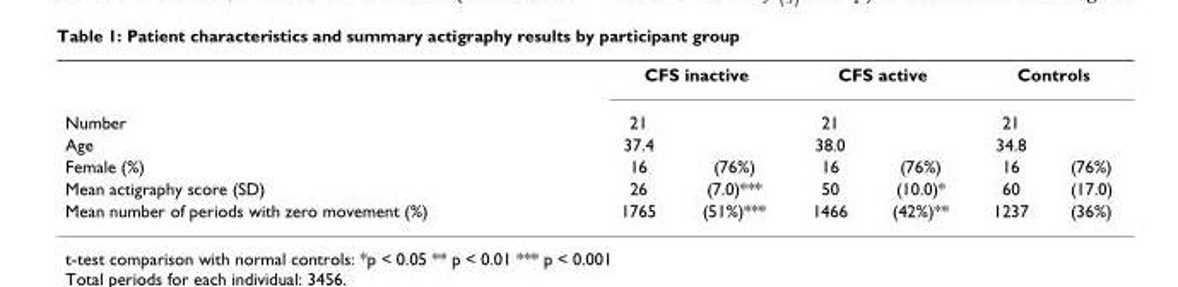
<table><thead><tr><td rowspan="2">Number</td><td colspan="2">CFS inactive</td><td colspan="2">CFS active</td><td colspan="2">Controls</td></tr><tr><td>21</td><td></td><td>21</td><td></td><td>21</td><td></td></tr></thead><tbody><tr><td>Age</td><td>37.4</td><td></td><td>38.0</td><td></td><td>34.8</td><td></td></tr><tr><td>Female (%)</td><td>16</td><td>(76%)</td><td>16</td><td>(76%)</td><td>16</td><td>(76%)</td></tr><tr><td>Mean actigraphy score (SD)</td><td>26</td><td>(7.0)***</td><td>50</td><td>(10.0)*</td><td>60</td><td>(17.0)</td></tr><tr><td>Mean number of periods with zero movement (%)</td><td>1765</td><td>(51%)***</td><td>1466</td><td>(42%)**</td><td>1237</td><td>(36%)</td></tr></tbody></table>